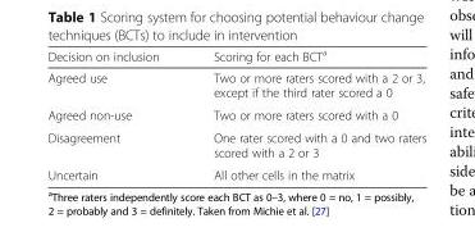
<table><thead><tr><td>Decision on inclusion</td><td>Scoring for each BCT<sup>a</sup></td></tr></thead><tbody><tr><td>Agreed use</td><td>Two or more raters scored with a 2 or 3, except if the third rater scored a 0</td></tr><tr><td>Agreed non-use</td><td>Two or more raters scored with a 0</td></tr><tr><td>Disagreement</td><td>One rater scored with a 0 and two raters scored with a 2 or 3</td></tr><tr><td>Uncertain</td><td>All other cells in the matrix</td></tr></tbody></table>